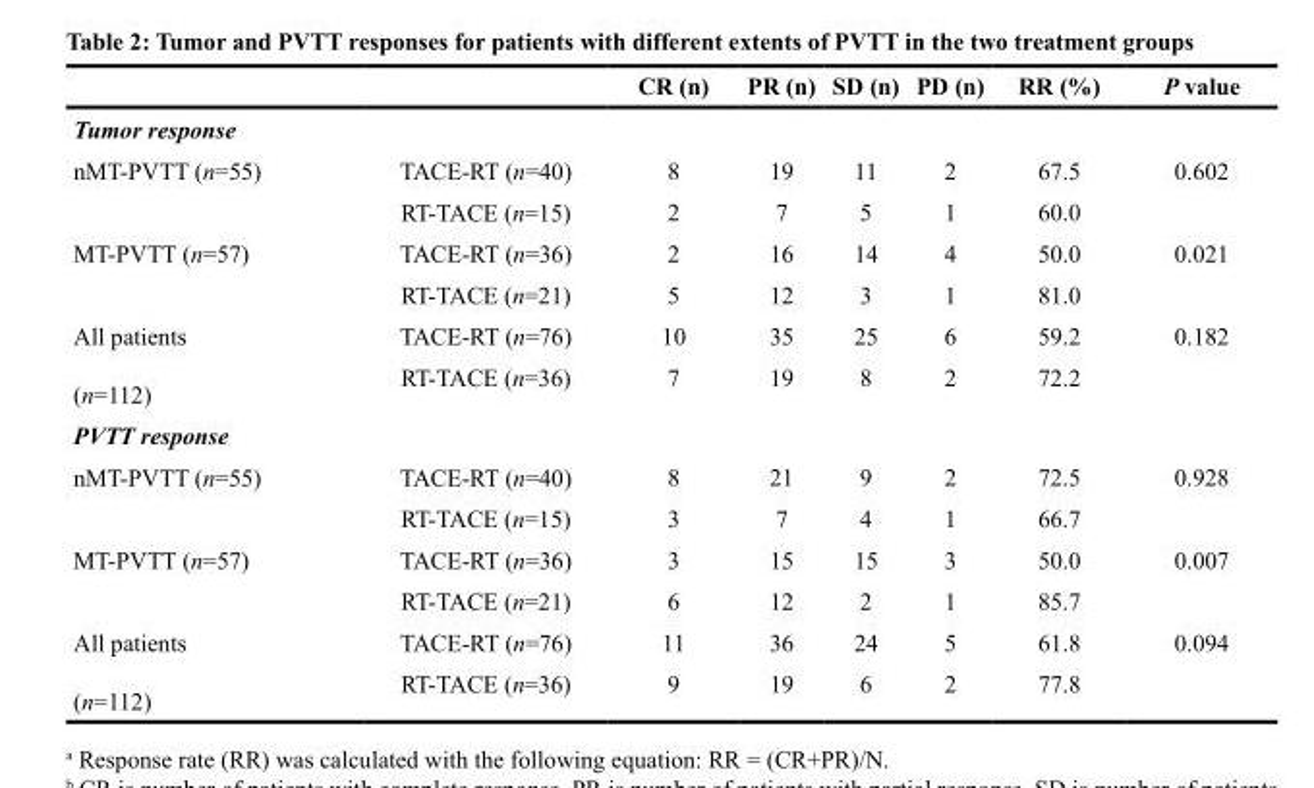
<table><thead><tr><td></td><td></td><td>CR (n)</td><td>PR (n)</td><td>SD (n)</td><td>PD (n)</td><td>RR (%)</td><td>P value</td></tr></thead><tbody><tr><td colspan="8">Tumor response</td></tr><tr><td rowspan="2">nMT-PVTT (n=55)</td><td>TACE-RT (n=40)</td><td>8</td><td>19</td><td>11</td><td>2</td><td>67.5</td><td>0.602</td></tr><tr><td>RT-TACE (n=15)</td><td>2</td><td>7</td><td>5</td><td>1</td><td>60.0</td><td></td></tr><tr><td rowspan="2">MT-PVTT (n=57)</td><td>TACE-RT (n=36)</td><td>2</td><td>16</td><td>14</td><td>4</td><td>50.0</td><td>0.021</td></tr><tr><td>RT-TACE (n=21)</td><td>5</td><td>12</td><td>3</td><td>1</td><td>81.0</td><td></td></tr><tr><td rowspan="2">All patients (n=112)</td><td>TACE-RT (n=76)</td><td>10</td><td>35</td><td>25</td><td>6</td><td>59.2</td><td>0.182</td></tr><tr><td>RT-TACE (n=36)</td><td>7</td><td>19</td><td>8</td><td>2</td><td>72.2</td><td></td></tr><tr><td colspan="8">PVTT response</td></tr><tr><td rowspan="2">nMT-PVTT (n=55)</td><td>TACE-RT (n=40)</td><td>8</td><td>21</td><td>9</td><td>2</td><td>72.5</td><td>0.928</td></tr><tr><td>RT-TACE (n=15)</td><td>3</td><td>7</td><td>4</td><td>1</td><td>66.7</td><td></td></tr><tr><td rowspan="2">MT-PVTT (n=57)</td><td>TACE-RT (n=36)</td><td>3</td><td>15</td><td>15</td><td>3</td><td>50.0</td><td>0.007</td></tr><tr><td>RT-TACE (n=21)</td><td>6</td><td>12</td><td>2</td><td>1</td><td>85.7</td><td></td></tr><tr><td rowspan="2">All patients (n=112)</td><td>TACE-RT (n=76)</td><td>11</td><td>36</td><td>24</td><td>5</td><td>61.8</td><td>0.094</td></tr><tr><td>RT-TACE (n=36)</td><td>9</td><td>19</td><td>6</td><td>2</td><td>77.8</td><td></td></tr></tbody></table>